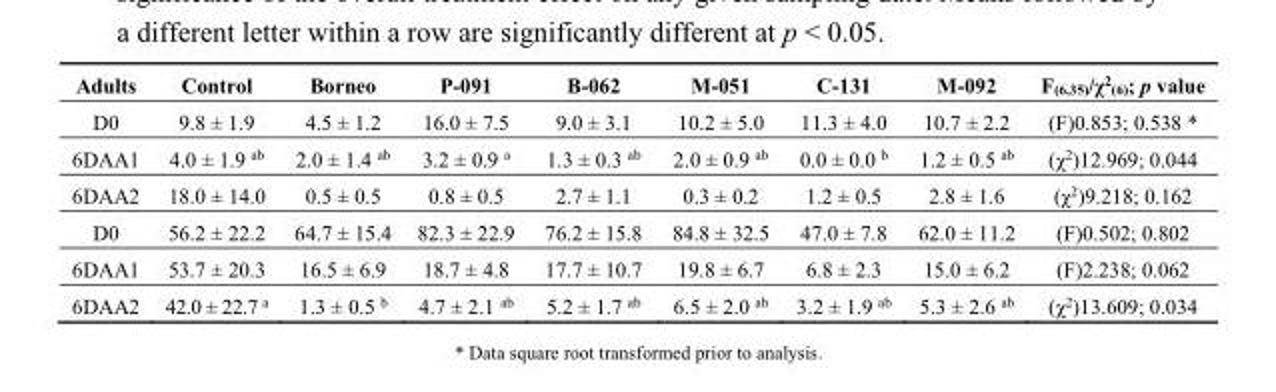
<table><thead><tr><td>Adults</td><td>Control</td><td>Borneo</td><td>P-091</td><td>B-062</td><td>M-051</td><td>C-131</td><td>M-092</td><td>F<sub>(6,35)</sub>/χ<sup>2</sup><sub>(6)</sub>; p value</td></tr></thead><tbody><tr><td>D0</td><td>9.8 ± 1.9</td><td>4.5 ± 1.2</td><td>16.0 ± 7.5</td><td>9.0 ± 3.1</td><td>10.2 ± 5.0</td><td>11.3 ± 4.0</td><td>10.7 ± 2.2</td><td>(F)0.853; 0.538 *</td></tr><tr><td>6DAA1</td><td>4.0 ± 1.9 <sup>ab</sup></td><td>2.0 ± 1.4 <sup>ab</sup></td><td>3.2 ± 0.9 <sup>a</sup></td><td>1.3 ± 0.3 <sup>ab</sup></td><td>2.0 ± 0.9 <sup>ab</sup></td><td>0.0 ± 0.0 <sup>b</sup></td><td>1.2 ± 0.5 <sup>ab</sup></td><td>(χ<sup>2</sup>)12.969; 0.044</td></tr><tr><td>6DAA2</td><td>18.0 ± 14.0</td><td>0.5 ± 0.5</td><td>0.8 ± 0.5</td><td>2.7 ± 1.1</td><td>0.3 ± 0.2</td><td>1.2 ± 0.5</td><td>2.8 ± 1.6</td><td>(χ<sup>2</sup>)9.218; 0.162</td></tr><tr><td>D0</td><td>56.2 ± 22.2</td><td>64.7 ± 15.4</td><td>82.3 ± 22.9</td><td>76.2 ± 15.8</td><td>84.8 ± 32.5</td><td>47.0 ± 7.8</td><td>62.0 ± 11.2</td><td>(F)0.502; 0.802</td></tr><tr><td>6DAA1</td><td>53.7 ± 20.3</td><td>16.5 ± 6.9</td><td>18.7 ± 4.8</td><td>17.7 ± 10.7</td><td>19.8 ± 6.7</td><td>6.8 ± 2.3</td><td>15.0 ± 6.2</td><td>(F)2.238; 0.062</td></tr><tr><td>6DAA2</td><td>42.0 ± 22.7 <sup>a</sup></td><td>1.3 ± 0.5 <sup>b</sup></td><td>4.7 ± 2.1 <sup>ab</sup></td><td>5.2 ± 1.7 <sup>ab</sup></td><td>6.5 ± 2.0 <sup>ab</sup></td><td>3.2 ± 1.9 <sup>ab</sup></td><td>5.3 ± 2.6 <sup>ab</sup></td><td>(χ<sup>2</sup>)13.609; 0.034</td></tr></tbody></table>